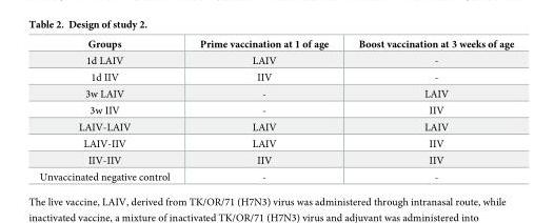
<table><thead><tr><td>Groups</td><td>Prime vaccination at 1 of age</td><td>Boost vaccination at 3 weeks of age</td></tr></thead><tbody><tr><td>1d LAIV</td><td>LAIV</td><td>-</td></tr><tr><td>1d IIV</td><td>IIV</td><td>-</td></tr><tr><td>3w LAIV</td><td>-</td><td>LAIV</td></tr><tr><td>3w IIV</td><td>-</td><td>IIV</td></tr><tr><td>LAIV-LAIV</td><td>LAIV</td><td>LAIV</td></tr><tr><td>LAIV-IIV</td><td>LAIV</td><td>IIV</td></tr><tr><td>IIV-IIV</td><td>IIV</td><td>IIV</td></tr><tr><td>Unvaccinated negative control</td><td>-</td><td>-</td></tr></tbody></table>